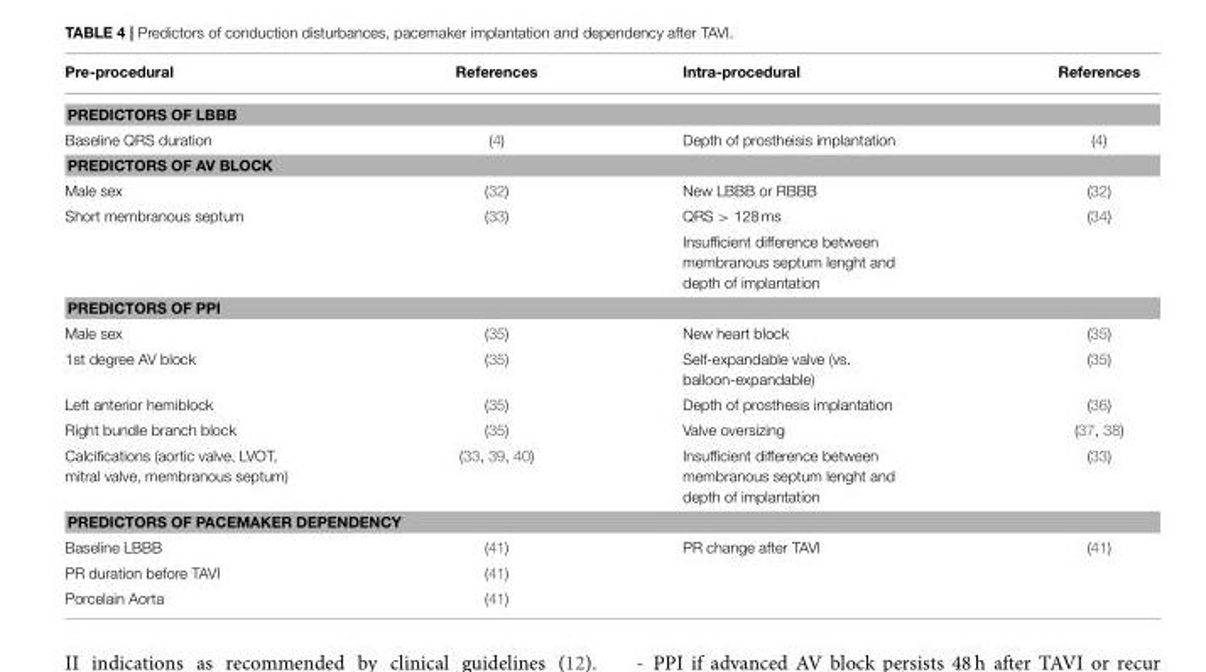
<table><thead><tr><td>Pre-procedural</td><td>References</td><td>Intra-procedural</td><td>References</td></tr></thead><tbody><tr><td colspan="4">PREDICTORS OF LBBB</td></tr><tr><td>Baseline QRS duration</td><td>(4)</td><td>Depth of prostheisis implantation</td><td>(4)</td></tr><tr><td colspan="4">PREDICTORS OF AV BLOCK</td></tr><tr><td>Male sex</td><td>(32)</td><td>New LBBB or RBBB</td><td>(32)</td></tr><tr><td rowspan="2">Short membranous septum</td><td>(33)</td><td>QRS &gt; 128 ms</td><td>(34)</td></tr><tr><td></td><td>Insufficient difference between membranous septum lenght and depth of implantation</td><td></td></tr><tr><td colspan="4">PREDICTORS OF PPI</td></tr><tr><td>Male sex</td><td>(35)</td><td>New heart block</td><td>(35)</td></tr><tr><td>1st degree AV block</td><td>(35)</td><td>Self-expandable valve (vs. balloon-expandable)</td><td>(35)</td></tr><tr><td>Left anterior hemiblock</td><td>(35)</td><td>Depth of prosthesis implantation</td><td>(36)</td></tr><tr><td>Right bundle branch block</td><td>(35)</td><td>Valve oversizing</td><td>(37, 38)</td></tr><tr><td>Calcifications (aortic valve, LVOT, mitral valve, membranous septum)</td><td>(33, 39, 40)</td><td>Insufficient difference between membranous septum lenght and depth of implantation</td><td>(33)</td></tr><tr><td colspan="4">PREDICTORS OF PACEMAKER DEPENDENCY</td></tr><tr><td>Baseline LBBB</td><td>(41)</td><td>PR change after TAVI</td><td>(41)</td></tr><tr><td>PR duration before TAVI</td><td>(41)</td><td></td><td></td></tr><tr><td>Porcelain Aorta</td><td>(41)</td><td></td><td></td></tr></tbody></table>